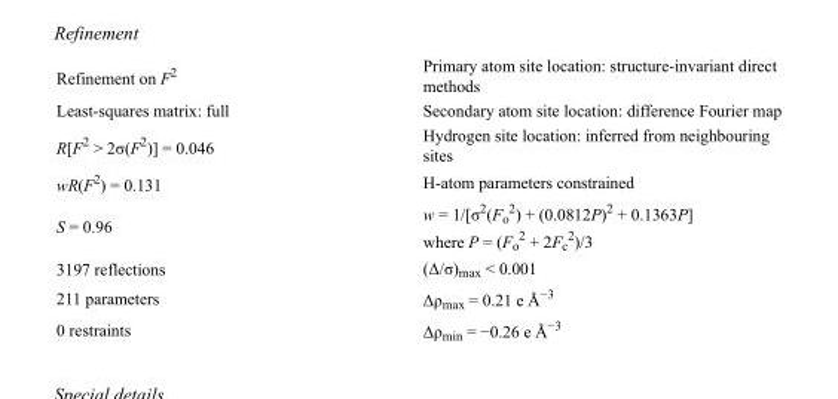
<table><tbody><tr><td>Refinement on F<sup>2</sup></td><td>Primary atom site location: structure-invariant direct methods</td></tr><tr><td>Least-squares matrix: full</td><td>Secondary atom site location: difference Fourier map</td></tr><tr><td>R[F<sup>2</sup> &gt; 2σ(F<sup>2</sup>)] = 0.046</td><td>Hydrogen site location: inferred from neighbouring sites</td></tr><tr><td>wR(F<sup>2</sup>) = 0.131</td><td>H-atom parameters constrained</td></tr><tr><td>S = 0.96</td><td>w = 1/[σ<sup>2</sup>(F<sub>o</sub> <sup>2</sup>) + (0.0812P)<sup>2</sup> + 0.1363P] where P = (F<sub>o</sub> <sup>2</sup> + 2F<sub>c</sub> <sup>2</sup>)/3</td></tr><tr><td>3197 reflections</td><td>(Δ/σ)<sub>max</sub> &lt; 0.001</td></tr><tr><td>211 parameters</td><td>Δρ<sub>max</sub> = 0.21 e Å<sup>−3</sup></td></tr><tr><td>0 restraints</td><td>Δρ<sub>min</sub> = −0.26 e Å<sup>−3</sup></td></tr></tbody></table>